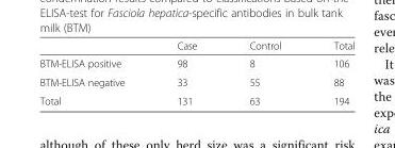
<table><thead><tr><td></td><td>Case</td><td>Control</td><td>Total</td></tr></thead><tbody><tr><td>BTM-ELISA positive</td><td>98</td><td>8</td><td>106</td></tr><tr><td>BTM-ELISA negative</td><td>33</td><td>55</td><td>88</td></tr><tr><td>Total</td><td>131</td><td>63</td><td>194</td></tr></tbody></table>